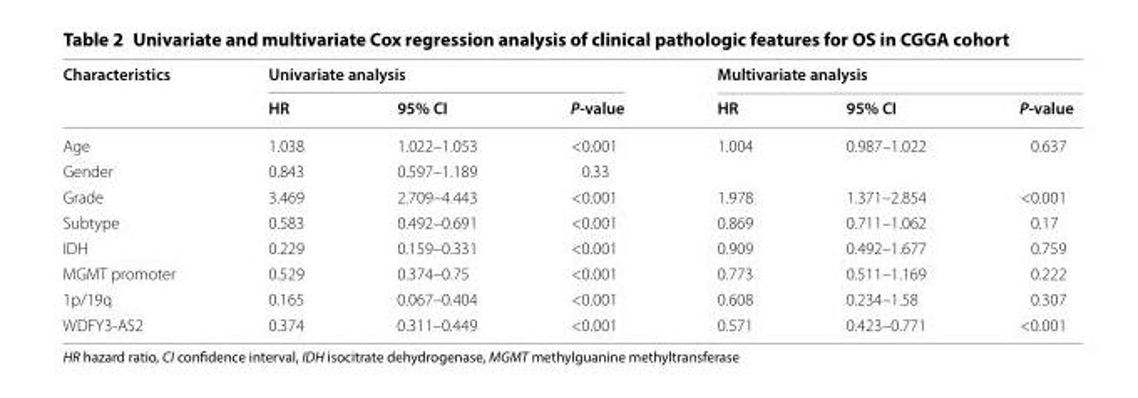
<table><thead><tr><td rowspan="2">Characteristics</td><td colspan="3">Univariate analysis</td><td colspan="3">Multivariate analysis</td></tr><tr><td>HR</td><td>95% CI</td><td>P‑value</td><td>HR</td><td>95% CI</td><td>P‑value</td></tr></thead><tbody><tr><td>Age</td><td>1.038</td><td>1.022–1.053</td><td>&lt;0.001</td><td>1.004</td><td>0.987–1.022</td><td>0.637</td></tr><tr><td>Gender</td><td>0.843</td><td>0.597–1.189</td><td>0.33</td><td></td><td></td><td></td></tr><tr><td>Grade</td><td>3.469</td><td>2.709–4.443</td><td>&lt;0.001</td><td>1.978</td><td>1.371–2.854</td><td>&lt;0.001</td></tr><tr><td>Subtype</td><td>0.583</td><td>0.492–0.691</td><td>&lt;0.001</td><td>0.869</td><td>0.711–1.062</td><td>0.17</td></tr><tr><td>IDH</td><td>0.229</td><td>0.159–0.331</td><td>&lt;0.001</td><td>0.909</td><td>0.492–1.677</td><td>0.759</td></tr><tr><td>MGMT promoter</td><td>0.529</td><td>0.374–0.75</td><td>&lt;0.001</td><td>0.773</td><td>0.511–1.169</td><td>0.222</td></tr><tr><td>1p/19q</td><td>0.165</td><td>0.067–0.404</td><td>&lt;0.001</td><td>0.608</td><td>0.234–1.58</td><td>0.307</td></tr><tr><td>WDFY3-AS2</td><td>0.374</td><td>0.311–0.449</td><td>&lt;0.001</td><td>0.571</td><td>0.423–0.771</td><td>&lt;0.001</td></tr></tbody></table>